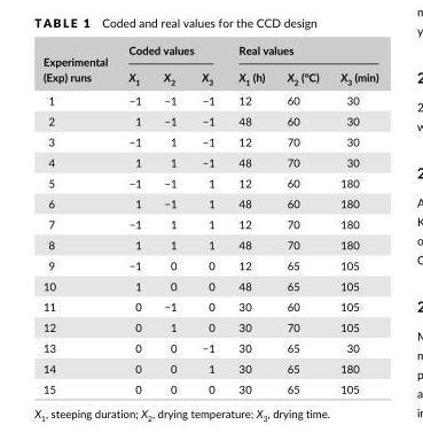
<table><thead><tr><td rowspan="2">Experimental (Exp) runs</td><td colspan="3">Coded values</td><td colspan="3">Real values</td></tr><tr><td>X<sub>1</sub></td><td>X<sub>2</sub></td><td>X<sub>3</sub></td><td>X<sub>1</sub> (h)</td><td>X<sub>2</sub> (°C)</td><td>X<sub>3</sub> (min)</td></tr></thead><tbody><tr><td>1</td><td>−1</td><td>−1</td><td>−1</td><td>12</td><td>60</td><td>30</td></tr><tr><td>2</td><td>1</td><td>−1</td><td>−1</td><td>48</td><td>60</td><td>30</td></tr><tr><td>3</td><td>−1</td><td>1</td><td>−1</td><td>12</td><td>70</td><td>30</td></tr><tr><td>4</td><td>1</td><td>1</td><td>−1</td><td>48</td><td>70</td><td>30</td></tr><tr><td>5</td><td>−1</td><td>−1</td><td>1</td><td>12</td><td>60</td><td>180</td></tr><tr><td>6</td><td>1</td><td>−1</td><td>1</td><td>48</td><td>60</td><td>180</td></tr><tr><td>7</td><td>−1</td><td>1</td><td>1</td><td>12</td><td>70</td><td>180</td></tr><tr><td>8</td><td>1</td><td>1</td><td>1</td><td>48</td><td>70</td><td>180</td></tr><tr><td>9</td><td>−1</td><td>0</td><td>0</td><td>12</td><td>65</td><td>105</td></tr><tr><td>10</td><td>1</td><td>0</td><td>0</td><td>48</td><td>65</td><td>105</td></tr><tr><td>11</td><td>0</td><td>−1</td><td>0</td><td>30</td><td>60</td><td>105</td></tr><tr><td>12</td><td>0</td><td>1</td><td>0</td><td>30</td><td>70</td><td>105</td></tr><tr><td>13</td><td>0</td><td>0</td><td>−1</td><td>30</td><td>65</td><td>30</td></tr><tr><td>14</td><td>0</td><td>0</td><td>1</td><td>30</td><td>65</td><td>180</td></tr><tr><td>15</td><td>0</td><td>0</td><td>0</td><td>30</td><td>65</td><td>105</td></tr></tbody></table>